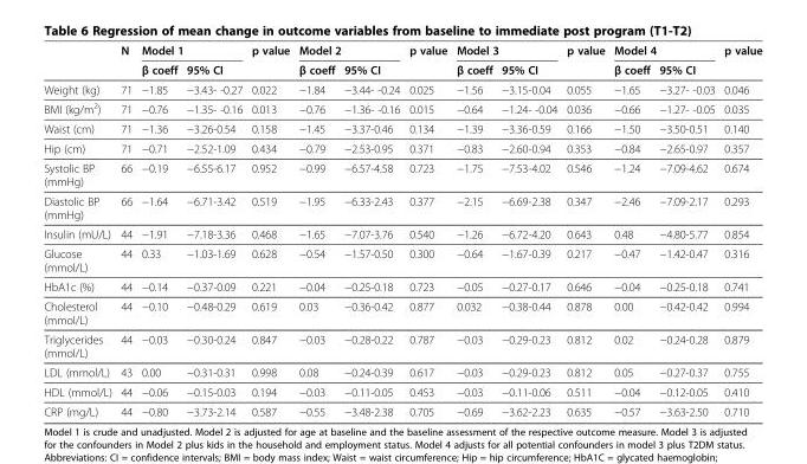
<table><thead><tr><td rowspan="2"></td><td rowspan="2">N</td><td colspan="2">Model 1</td><td rowspan="2">p value</td><td colspan="2">Model 2</td><td rowspan="2">p value</td><td colspan="2">Model 3</td><td rowspan="2">p value</td><td colspan="2">Model 4</td><td rowspan="2">p value</td></tr><tr><td>β coeff</td><td>95% CI</td><td>β coeff</td><td>95% CI</td><td>β coeff</td><td>95% CI</td><td>β coeff</td><td>95% CI</td></tr></thead><tbody><tr><td>Weight (kg)</td><td>71</td><td>−1.85</td><td>−3.43- -0.27</td><td>0.022</td><td>−1.84</td><td>−3.44- -0.24</td><td>0.025</td><td>−1.56</td><td>−3.15-0.04</td><td>0.055</td><td>−1.65</td><td>−3.27- -0.03</td><td>0.046</td></tr><tr><td>BMI (kg/m<sup>2</sup>)</td><td>71</td><td>−0.76</td><td>−1.35- -0.16</td><td>0.013</td><td>−0.76</td><td>−1.36- -0.16</td><td>0.015</td><td>−0.64</td><td>−1.24- -0.04</td><td>0.036</td><td>−0.66</td><td>−1.27- -0.05</td><td>0.035</td></tr><tr><td>Waist (cm)</td><td>71</td><td>−1.36</td><td>−3.26-0.54</td><td>0.158</td><td>−1.45</td><td>−3.37-0.46</td><td>0.134</td><td>−1.39</td><td>−3.36-0.59</td><td>0.166</td><td>−1.50</td><td>−3.50-0.51</td><td>0.140</td></tr><tr><td>Hip (cm)</td><td>71</td><td>−0.71</td><td>−2.52-1.09</td><td>0.434</td><td>−0.79</td><td>−2.53-0.95</td><td>0.371</td><td>−0.83</td><td>−2.60-0.94</td><td>0.353</td><td>−0.84</td><td>−2.65-0.97</td><td>0.357</td></tr><tr><td>Systolic BP (mmHg)</td><td>66</td><td>−0.19</td><td>−6.55-6.17</td><td>0.952</td><td>−0.99</td><td>−6.57-4.58</td><td>0.723</td><td>−1.75</td><td>−7.53-4.02</td><td>0.546</td><td>−1.24</td><td>−7.09-4.62</td><td>0.674</td></tr><tr><td>Diastolic BP (mmHg)</td><td>66</td><td>−1.64</td><td>−6.71-3.42</td><td>0.519</td><td>−1.95</td><td>−6.33-2.43</td><td>0.377</td><td>−2.15</td><td>−6.69-2.38</td><td>0.347</td><td>−2.46</td><td>−7.09-2.17</td><td>0.293</td></tr><tr><td>Insulin (mU/L)</td><td>44</td><td>−1.91</td><td>−7.18-3.36</td><td>0.468</td><td>−1.65</td><td>−7.07-3.76</td><td>0.540</td><td>−1.26</td><td>−6.72-4.20</td><td>0.643</td><td>0.48</td><td>−4.80-5.77</td><td>0.854</td></tr><tr><td>Glucose (mmol/L)</td><td>44</td><td>0.33</td><td>−1.03-1.69</td><td>0.628</td><td>−0.54</td><td>−1.57-0.50</td><td>0.300</td><td>−0.64</td><td>−1.67-0.39</td><td>0.217</td><td>−0.47</td><td>−1.42-0.47</td><td>0.316</td></tr><tr><td>HbA1c (%)</td><td>44</td><td>−0.14</td><td>−0.37-0.09</td><td>0.221</td><td>−0.04</td><td>−0.25-0.18</td><td>0.723</td><td>−0.05</td><td>−0.27-0.17</td><td>0.646</td><td>−0.04</td><td>−0.25-0.18</td><td>0.741</td></tr><tr><td>Cholesterol (mmol/L)</td><td>44</td><td>−0.10</td><td>−0.48-0.29</td><td>0.619</td><td>0.03</td><td>−0.36-0.42</td><td>0.877</td><td>0.032</td><td>−0.38-0.44</td><td>0.878</td><td>0.00</td><td>−0.42-0.42</td><td>0.994</td></tr><tr><td>Triglycerides (mmol/L)</td><td>44</td><td>−0.03</td><td>−0.30-0.24</td><td>0.847</td><td>−0.03</td><td>−0.28-0.22</td><td>0.787</td><td>−0.03</td><td>−0.29-0.23</td><td>0.812</td><td>0.02</td><td>−0.24-0.28</td><td>0.879</td></tr><tr><td>LDL (mmol/L)</td><td>43</td><td>0.00</td><td>−0.31-0.31</td><td>0.998</td><td>0.08</td><td>−0.24-0.39</td><td>0.617</td><td>−0.03</td><td>−0.29-0.23</td><td>0.812</td><td>0.05</td><td>−0.27-0.37</td><td>0.755</td></tr><tr><td>HDL (mmol/L)</td><td>44</td><td>−0.06</td><td>−0.15-0.03</td><td>0.194</td><td>−0.03</td><td>−0.11-0.05</td><td>0.453</td><td>−0.03</td><td>−0.11-0.06</td><td>0.511</td><td>−0.04</td><td>−0.12-0.05</td><td>0.410</td></tr><tr><td>CRP (mg/L)</td><td>44</td><td>−0.80</td><td>−3.73-2.14</td><td>0.587</td><td>−0.55</td><td>−3.48-2.38</td><td>0.705</td><td>−0.69</td><td>−3.62-2.23</td><td>0.635</td><td>−0.57</td><td>−3.63-2.50</td><td>0.710</td></tr></tbody></table>